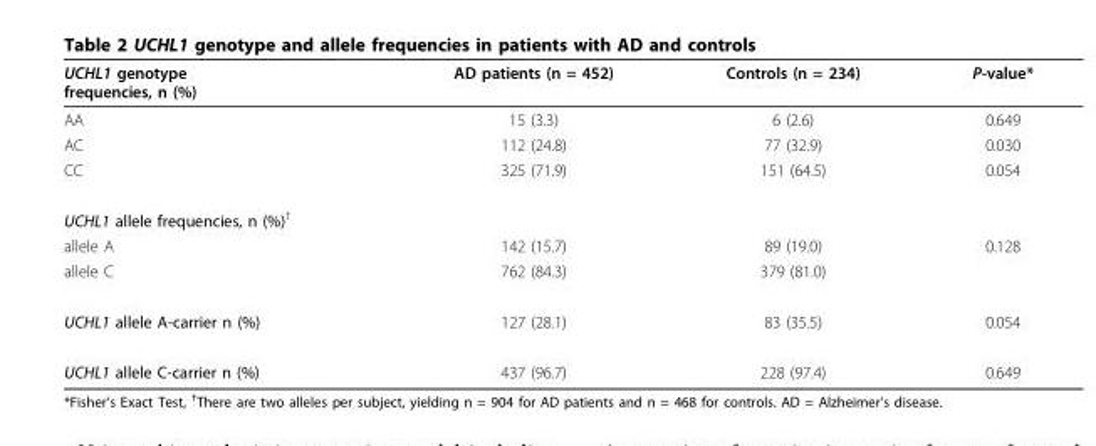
<table><thead><tr><td>UCHL1 genotype frequencies, n (%)</td><td>AD patients (n = 452)</td><td>Controls (n = 234)</td><td>P-value*</td></tr></thead><tbody><tr><td>AA</td><td>15 (3.3)</td><td>6 (2.6)</td><td>0.649</td></tr><tr><td>AC</td><td>112 (24.8)</td><td>77 (32.9)</td><td>0.030</td></tr><tr><td>CC</td><td>325 (71.9)</td><td>151 (64.5)</td><td>0.054</td></tr><tr><td colspan="4">UCHL1 allele frequencies, n (%)<sup>†</sup></td></tr><tr><td>allele A</td><td>142 (15.7)</td><td>89 (19.0)</td><td>0.128</td></tr><tr><td>allele C</td><td>762 (84.3)</td><td>379 (81.0)</td><td></td></tr><tr><td>UCHL1 allele A-carrier n (%)</td><td>127 (28.1)</td><td>83 (35.5)</td><td>0.054</td></tr><tr><td>UCHL1 allele C-carrier n (%)</td><td>437 (96.7)</td><td>228 (97.4)</td><td>0.649</td></tr></tbody></table>